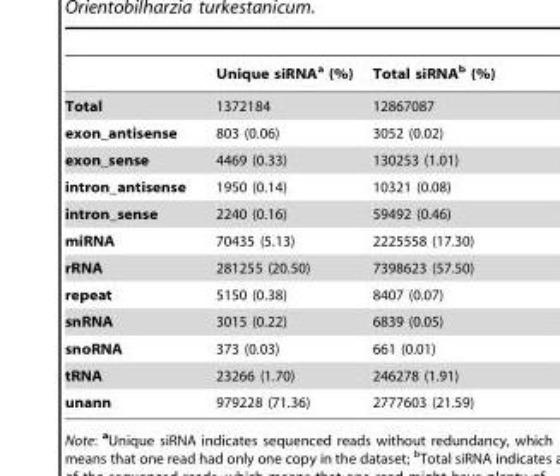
<table><thead><tr><td></td><td>Unique siRNA<sup>a</sup> (%)</td><td>Total siRNA<sup>b</sup> (%)</td></tr></thead><tbody><tr><td>Total</td><td>1372184</td><td>12867087</td></tr><tr><td>exon_antisense</td><td>803 (0.06)</td><td>3052 (0.02)</td></tr><tr><td>exon_sense</td><td>4469 (0.33)</td><td>130253 (1.01)</td></tr><tr><td>intron_antisense</td><td>1950 (0.14)</td><td>10321 (0.08)</td></tr><tr><td>intron_sense</td><td>2240 (0.16)</td><td>59492 (0.46)</td></tr><tr><td>miRNA</td><td>70435 (5.13)</td><td>2225558 (17.30)</td></tr><tr><td>rRNA</td><td>281255 (20.50)</td><td>7398623 (57.50)</td></tr><tr><td>repeat</td><td>5150 (0.38)</td><td>8407 (0.07)</td></tr><tr><td>snRNA</td><td>3015 (0.22)</td><td>6839 (0.05)</td></tr><tr><td>snoRNA</td><td>373 (0.03)</td><td>661 (0.01)</td></tr><tr><td>tRNA</td><td>23266 (1.70)</td><td>246278 (1.91)</td></tr><tr><td>unann</td><td>979228 (71.36)</td><td>2777603 (21.59)</td></tr></tbody></table>